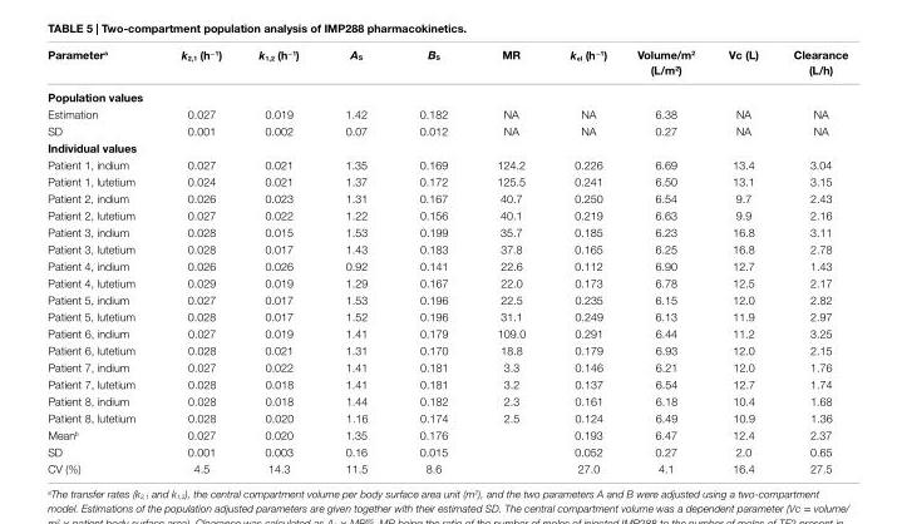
<table><thead><tr><td>Parameter<sup>a</sup></td><td>k<sub>2,1</sub> (h<sup>−1</sup>)</td><td>k<sub>1,2</sub> (h<sup>−1</sup>)</td><td>A<sub>S</sub></td><td>B<sub>S</sub></td><td>Mr</td><td>k<sub>el</sub> (h<sup>−1</sup>)</td><td>Volume/m<sup>2</sup> (l/m<sup>2</sup>)</td><td>Vc (l)</td><td>Clearance (l/h)</td></tr></thead><tbody><tr><td colspan="10">Population values</td></tr><tr><td>Estimation</td><td>0.027</td><td>0.019</td><td>1.42</td><td>0.182</td><td>NA</td><td>NA</td><td>6.38</td><td>NA</td><td>NA</td></tr><tr><td>SD</td><td>0.001</td><td>0.002</td><td>0.07</td><td>0.012</td><td>NA</td><td>NA</td><td>0.27</td><td>NA</td><td>NA</td></tr><tr><td colspan="10">individual values</td></tr><tr><td>Patient 1, indium</td><td>0.027</td><td>0.021</td><td>1.35</td><td>0.169</td><td>124.2</td><td>0.226</td><td>6.69</td><td>13.4</td><td>3.04</td></tr><tr><td>Patient 1, lutetium</td><td>0.024</td><td>0.021</td><td>1.37</td><td>0.172</td><td>125.5</td><td>0.241</td><td>6.50</td><td>13.1</td><td>3.15</td></tr><tr><td>Patient 2, indium</td><td>0.026</td><td>0.023</td><td>1.31</td><td>0.167</td><td>40.7</td><td>0.250</td><td>6.54</td><td>9.7</td><td>2.43</td></tr><tr><td>Patient 2, lutetium</td><td>0.027</td><td>0.022</td><td>1.22</td><td>0.156</td><td>40.1</td><td>0.219</td><td>6.63</td><td>9.9</td><td>2.16</td></tr><tr><td>Patient 3, indium</td><td>0.028</td><td>0.015</td><td>1.53</td><td>0.199</td><td>35.7</td><td>0.185</td><td>6.23</td><td>16.8</td><td>3.11</td></tr><tr><td>Patient 3, lutetium</td><td>0.028</td><td>0.017</td><td>1.43</td><td>0.183</td><td>37.8</td><td>0.165</td><td>6.25</td><td>16.8</td><td>2.78</td></tr><tr><td>Patient 4, indium</td><td>0.026</td><td>0.026</td><td>0.92</td><td>0.141</td><td>22.6</td><td>0.112</td><td>6.90</td><td>12.7</td><td>1.43</td></tr><tr><td>Patient 4, lutetium</td><td>0.029</td><td>0.019</td><td>1.29</td><td>0.167</td><td>22.0</td><td>0.173</td><td>6.78</td><td>12.5</td><td>2.17</td></tr><tr><td>Patient 5, indium</td><td>0.027</td><td>0.017</td><td>1.53</td><td>0.196</td><td>22.5</td><td>0.235</td><td>6.15</td><td>12.0</td><td>2.82</td></tr><tr><td>Patient 5, lutetium</td><td>0.028</td><td>0.017</td><td>1.52</td><td>0.196</td><td>31.1</td><td>0.249</td><td>6.13</td><td>11.9</td><td>2.97</td></tr><tr><td>Patient 6, indium</td><td>0.027</td><td>0.019</td><td>1.41</td><td>0.179</td><td>109.0</td><td>0.291</td><td>6.44</td><td>11.2</td><td>3.25</td></tr><tr><td>Patient 6, lutetium</td><td>0.028</td><td>0.021</td><td>1.31</td><td>0.170</td><td>18.8</td><td>0.179</td><td>6.93</td><td>12.0</td><td>2.15</td></tr><tr><td>Patient 7, indium</td><td>0.027</td><td>0.022</td><td>1.41</td><td>0.181</td><td>3.3</td><td>0.146</td><td>6.21</td><td>12.0</td><td>1.76</td></tr><tr><td>Patient 7, lutetium</td><td>0.028</td><td>0.018</td><td>1.41</td><td>0.181</td><td>3.2</td><td>0.137</td><td>6.54</td><td>12.7</td><td>1.74</td></tr><tr><td>Patient 8, indium</td><td>0.028</td><td>0.018</td><td>1.44</td><td>0.182</td><td>2.3</td><td>0.161</td><td>6.18</td><td>10.4</td><td>1.68</td></tr><tr><td>Patient 8, lutetium</td><td>0.028</td><td>0.020</td><td>1.16</td><td>0.174</td><td>2.5</td><td>0.124</td><td>6.49</td><td>10.9</td><td>1.36</td></tr><tr><td>Mean<sup>b</sup></td><td>0.027</td><td>0.020</td><td>1.35</td><td>0.176</td><td></td><td>0.193</td><td>6.47</td><td>12.4</td><td>2.37</td></tr><tr><td>SD</td><td>0.001</td><td>0.003</td><td>0.16</td><td>0.015</td><td></td><td>0.052</td><td>0.27</td><td>2.0</td><td>0.65</td></tr><tr><td>CV (%)</td><td>4.5</td><td>14.3</td><td>11.5</td><td>8.6</td><td></td><td>27.0</td><td>4.1</td><td>16.4</td><td>27.5</td></tr></tbody></table>